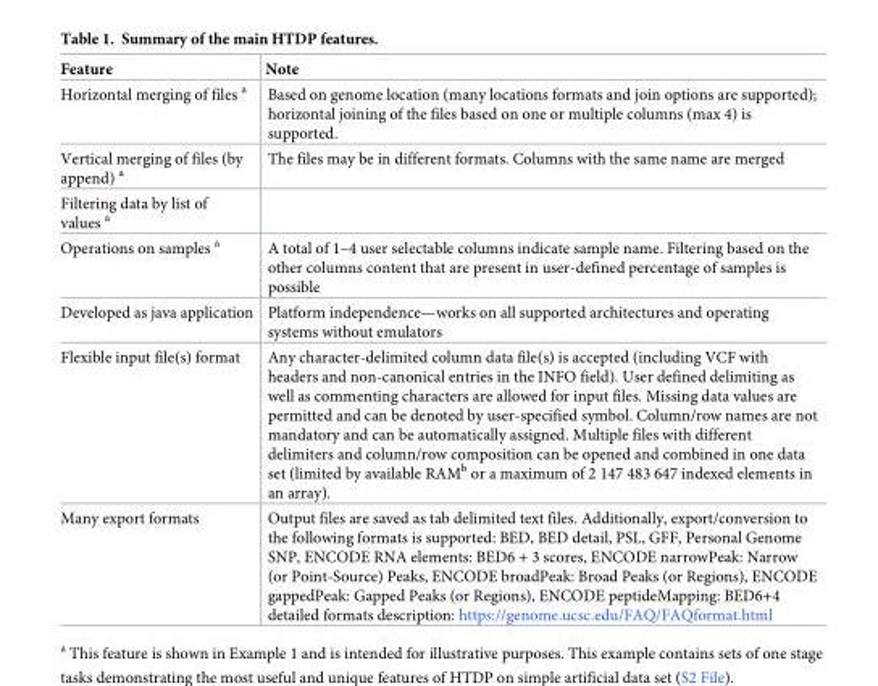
<table><thead><tr><td>Feature</td><td>Note</td></tr></thead><tbody><tr><td>Horizontal merging of files <sup>a</sup></td><td>Based on genome location (many locations formats and join options are supported); horizontal joining of the files based on one or multiple columns (max 4) is supported.</td></tr><tr><td>Vertical merging of files (by append) <sup>a</sup></td><td>The files may be in different formats. Columns with the same name are merged</td></tr><tr><td colspan="2">Filtering data by list of values <sup>a</sup></td></tr><tr><td>Operations on samples <sup>a</sup></td><td>A total of 1–4 user selectable columns indicate sample name. Filtering based on the other columns content that are present in user-defined percentage of samples is possible</td></tr><tr><td>Developed as java application</td><td>Platform independence—works on all supported architectures and operating systems without emulators</td></tr><tr><td>Flexible input file(s) format</td><td>Any character-delimited column data file(s) is accepted (including VCF with headers and non-canonical entries in the INFO field). User defined delimiting as well as commenting characters are allowed for input files. Missing data values are permitted and can be denoted by user-specified symbol. Column/row names are not mandatory and can be automatically assigned. Multiple files with different delimiters and column/row composition can be opened and combined in one data set (limited by available RAM<sup>b</sup> or a maximum of 2 147 483 647 indexed elements in an array).</td></tr><tr><td>Many export formats</td><td>Output files are saved as tab delimited text files. Additionally, export/conversion to the following formats is supported: BED, BED detail, PSL, GFF, Personal Genome SNP, ENCODE RNA elements: BED6 + 3 scores, ENCODE narrowPeak: Narrow (or Point-Source) Peaks, ENCODE broadPeak: Broad Peaks (or Regions), ENCODE gappedPeak: Gapped Peaks (or Regions), ENCODE peptideMapping: BED6+4 detailed formats description: https://genome.ucsc.edu/FAQ/FAQformat.html</td></tr></tbody></table>